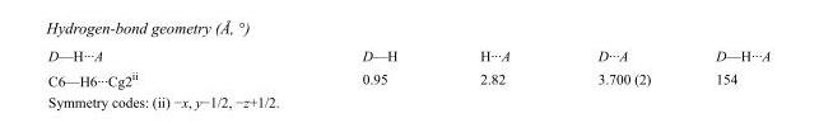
<table><tbody><tr><td>D—H···A</td><td>D—H</td><td>H···A</td><td>D···A</td><td>D—H···A</td></tr><tr><td>C6—H6···Cg2<sup>ii</sup></td><td>0.95</td><td>2.82</td><td>3.700 (2)</td><td>154</td></tr></tbody></table>